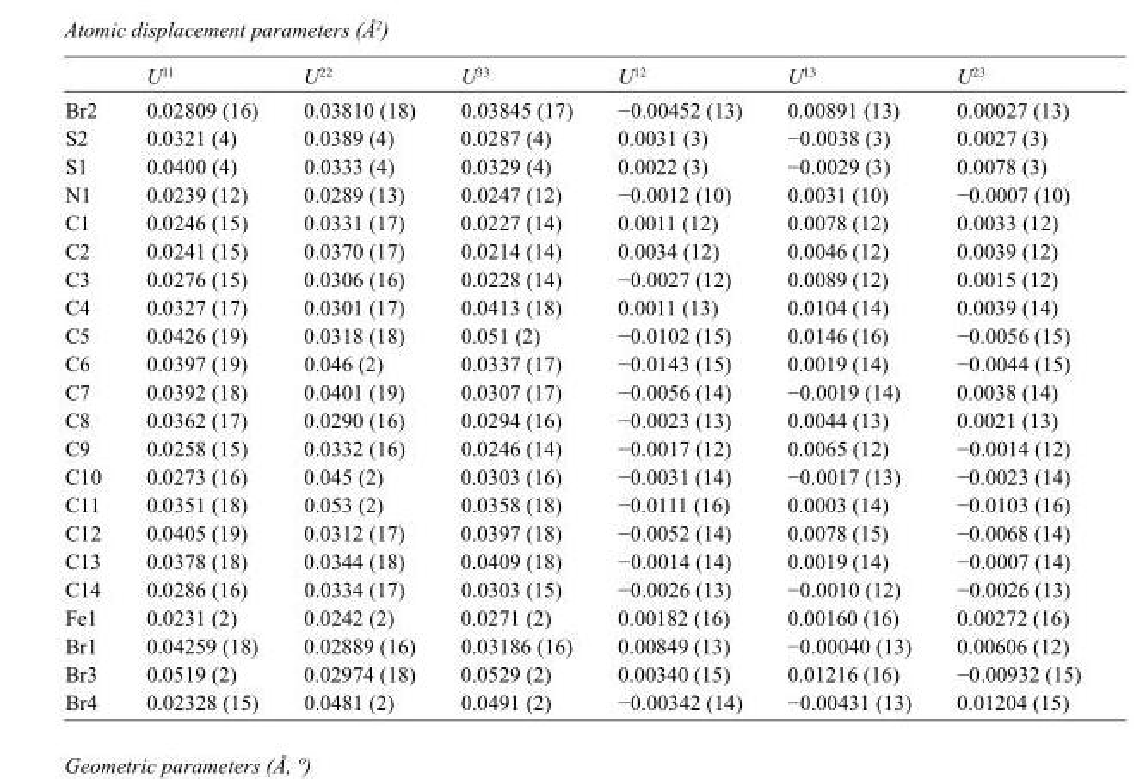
<table><thead><tr><td></td><td>U<sup>11</sup></td><td>U<sup>22</sup></td><td>U<sup>33</sup></td><td>U<sup>12</sup></td><td>U<sup>13</sup></td><td>U<sup>23</sup></td></tr></thead><tbody><tr><td>Br2</td><td>0.02809 (16)</td><td>0.03810 (18)</td><td>0.03845 (17)</td><td>−0.00452 (13)</td><td>0.00891 (13)</td><td>0.00027 (13)</td></tr><tr><td>S2</td><td>0.0321 (4)</td><td>0.0389 (4)</td><td>0.0287 (4)</td><td>0.0031 (3)</td><td>−0.0038 (3)</td><td>0.0027 (3)</td></tr><tr><td>S1</td><td>0.0400 (4)</td><td>0.0333 (4)</td><td>0.0329 (4)</td><td>0.0022 (3)</td><td>−0.0029 (3)</td><td>0.0078 (3)</td></tr><tr><td>N1</td><td>0.0239 (12)</td><td>0.0289 (13)</td><td>0.0247 (12)</td><td>−0.0012 (10)</td><td>0.0031 (10)</td><td>−0.0007 (10)</td></tr><tr><td>C1</td><td>0.0246 (15)</td><td>0.0331 (17)</td><td>0.0227 (14)</td><td>0.0011 (12)</td><td>0.0078 (12)</td><td>0.0033 (12)</td></tr><tr><td>C2</td><td>0.0241 (15)</td><td>0.0370 (17)</td><td>0.0214 (14)</td><td>0.0034 (12)</td><td>0.0046 (12)</td><td>0.0039 (12)</td></tr><tr><td>C3</td><td>0.0276 (15)</td><td>0.0306 (16)</td><td>0.0228 (14)</td><td>−0.0027 (12)</td><td>0.0089 (12)</td><td>0.0015 (12)</td></tr><tr><td>C4</td><td>0.0327 (17)</td><td>0.0301 (17)</td><td>0.0413 (18)</td><td>0.0011 (13)</td><td>0.0104 (14)</td><td>0.0039 (14)</td></tr><tr><td>C5</td><td>0.0426 (19)</td><td>0.0318 (18)</td><td>0.051 (2)</td><td>−0.0102 (15)</td><td>0.0146 (16)</td><td>−0.0056 (15)</td></tr><tr><td>C6</td><td>0.0397 (19)</td><td>0.046 (2)</td><td>0.0337 (17)</td><td>−0.0143 (15)</td><td>0.0019 (14)</td><td>−0.0044 (15)</td></tr><tr><td>C7</td><td>0.0392 (18)</td><td>0.0401 (19)</td><td>0.0307 (17)</td><td>−0.0056 (14)</td><td>−0.0019 (14)</td><td>0.0038 (14)</td></tr><tr><td>C8</td><td>0.0362 (17)</td><td>0.0290 (16)</td><td>0.0294 (16)</td><td>−0.0023 (13)</td><td>0.0044 (13)</td><td>0.0021 (13)</td></tr><tr><td>C9</td><td>0.0258 (15)</td><td>0.0332 (16)</td><td>0.0246 (14)</td><td>−0.0017 (12)</td><td>0.0065 (12)</td><td>−0.0014 (12)</td></tr><tr><td>C10</td><td>0.0273 (16)</td><td>0.045 (2)</td><td>0.0303 (16)</td><td>−0.0031 (14)</td><td>−0.0017 (13)</td><td>−0.0023 (14)</td></tr><tr><td>C11</td><td>0.0351 (18)</td><td>0.053 (2)</td><td>0.0358 (18)</td><td>−0.0111 (16)</td><td>0.0003 (14)</td><td>−0.0103 (16)</td></tr><tr><td>C12</td><td>0.0405 (19)</td><td>0.0312 (17)</td><td>0.0397 (18)</td><td>−0.0052 (14)</td><td>0.0078 (15)</td><td>−0.0068 (14)</td></tr><tr><td>C13</td><td>0.0378 (18)</td><td>0.0344 (18)</td><td>0.0409 (18)</td><td>−0.0014 (14)</td><td>0.0019 (14)</td><td>−0.0007 (14)</td></tr><tr><td>C14</td><td>0.0286 (16)</td><td>0.0334 (17)</td><td>0.0303 (15)</td><td>−0.0026 (13)</td><td>−0.0010 (12)</td><td>−0.0026 (13)</td></tr><tr><td>Fe1</td><td>0.0231 (2)</td><td>0.0242 (2)</td><td>0.0271 (2)</td><td>0.00182 (16)</td><td>0.00160 (16)</td><td>0.00272 (16)</td></tr><tr><td>Br1</td><td>0.04259 (18)</td><td>0.02889 (16)</td><td>0.03186 (16)</td><td>0.00849 (13)</td><td>−0.00040 (13)</td><td>0.00606 (12)</td></tr><tr><td>Br3</td><td>0.0519 (2)</td><td>0.02974 (18)</td><td>0.0529 (2)</td><td>0.00340 (15)</td><td>0.01216 (16)</td><td>−0.00932 (15)</td></tr><tr><td>Br4</td><td>0.02328 (15)</td><td>0.0481 (2)</td><td>0.0491 (2)</td><td>−0.00342 (14)</td><td>−0.00431 (13)</td><td>0.01204 (15)</td></tr></tbody></table>